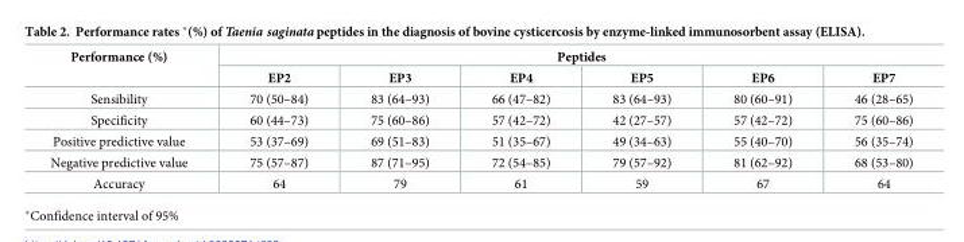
<table><thead><tr><td rowspan="2">Performance (%)</td><td colspan="6">Peptides</td></tr><tr><td>EP2</td><td>EP3</td><td>EP4</td><td>EP5</td><td>EP6</td><td>EP7</td></tr></thead><tbody><tr><td>Sensibility</td><td>70 (50–84)</td><td>83 (64–93)</td><td>66 (47–82)</td><td>83 (64–93)</td><td>80 (60–91)</td><td>46 (28–65)</td></tr><tr><td>Specificity</td><td>60 (44–73)</td><td>75 (60–86)</td><td>57 (42–72)</td><td>42 (27–57)</td><td>57 (42–72)</td><td>75 (60–86)</td></tr><tr><td>Positive predictive value</td><td>53 (37–69)</td><td>69 (51–83)</td><td>51 (35–67)</td><td>49 (34–63)</td><td>55 (40–70)</td><td>56 (35–74)</td></tr><tr><td>Negative predictive value</td><td>75 (57–87)</td><td>87 (71–95)</td><td>72 (54–85)</td><td>79 (57–92)</td><td>81 (62–92)</td><td>68 (53–80)</td></tr><tr><td>Accuracy</td><td>64</td><td>79</td><td>61</td><td>59</td><td>67</td><td>64</td></tr></tbody></table>